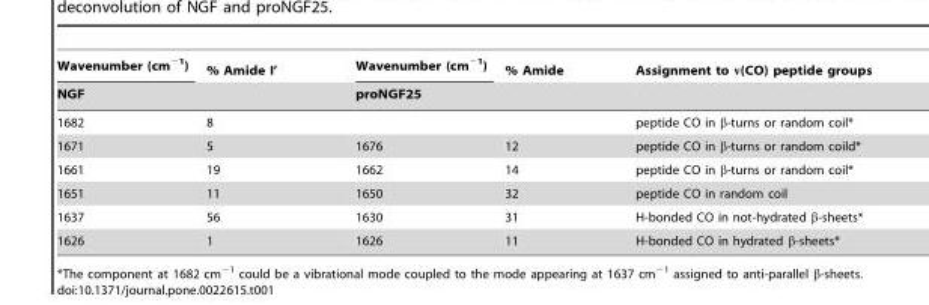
<table><thead><tr><td>Wavenumber (cm<sup>−1</sup>)</td><td>% Amide I’</td><td>Wavenumber (cm<sup>−1</sup>)</td><td>% Amide</td><td rowspan="2">Assignment to ν(CO) peptide groups</td></tr><tr><td colspan="2">NGF</td><td colspan="2">proNGF25</td></tr></thead><tbody><tr><td>1682</td><td>8</td><td></td><td></td><td>peptide CO in β-turns or random coil*</td></tr><tr><td>1671</td><td>5</td><td>1676</td><td>12</td><td>peptide CO in β-turns or random coild*</td></tr><tr><td>1661</td><td>19</td><td>1662</td><td>14</td><td>peptide CO in β-turns or random coil*</td></tr><tr><td>1651</td><td>11</td><td>1650</td><td>32</td><td>peptide CO in random coil</td></tr><tr><td>1637</td><td>56</td><td>1630</td><td>31</td><td>H-bonded CO in not-hydrated β-sheets*</td></tr><tr><td>1626</td><td>1</td><td>1626</td><td>11</td><td>H-bonded CO in hydrated β-sheets*</td></tr></tbody></table>